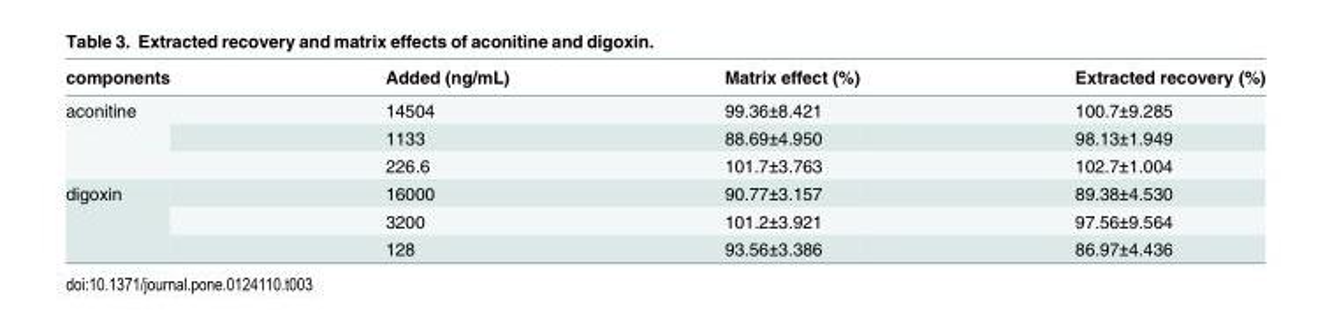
<table><thead><tr><td>components</td><td>Added (ng/mL)</td><td>Matrix effect (%)</td><td>Extracted recovery (%)</td></tr></thead><tbody><tr><td rowspan="3">aconitine</td><td>14504</td><td>99.36±8.421</td><td>100.7±9.285</td></tr><tr><td>1133</td><td>88.69±4.950</td><td>98.13±1.949</td></tr><tr><td>226.6</td><td>101.7±3.763</td><td>102.7±1.004</td></tr><tr><td rowspan="3">digoxin</td><td>16000</td><td>90.77±3.157</td><td>89.38±4.530</td></tr><tr><td>3200</td><td>101.2±3.921</td><td>97.56±9.564</td></tr><tr><td>128</td><td>93.56±3.386</td><td>86.97±4.436</td></tr></tbody></table>